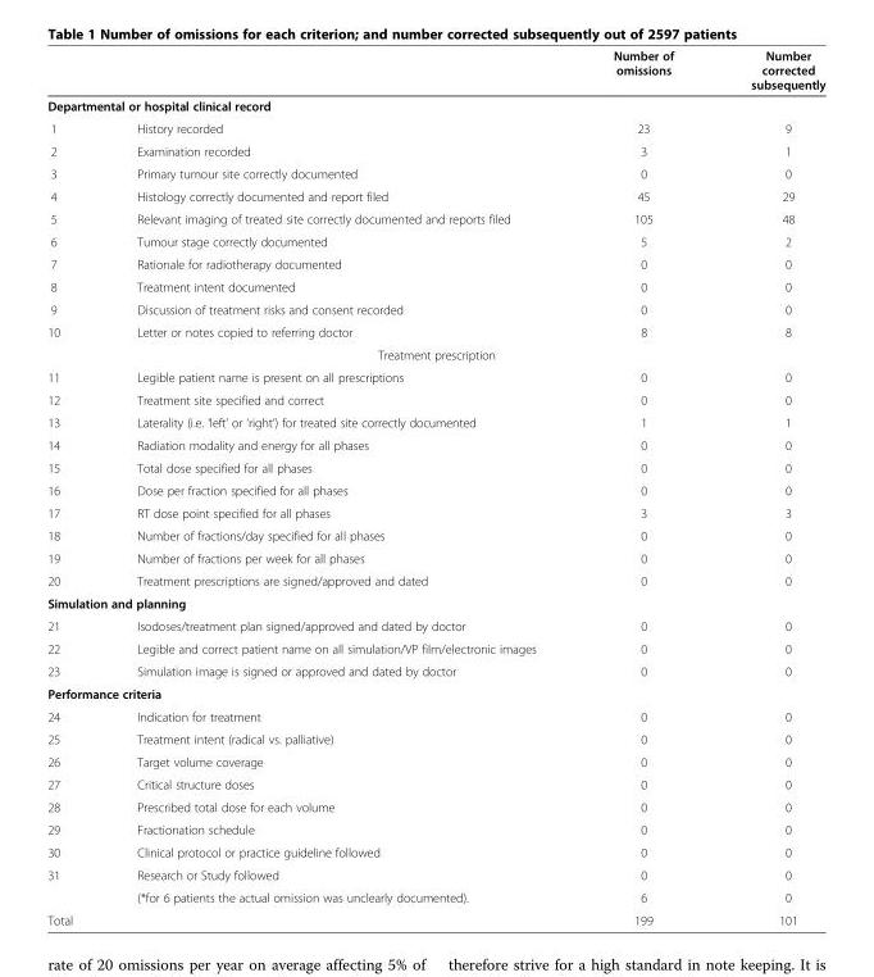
<table><thead><tr><td></td><td></td><td>Number of omissions</td><td>Number corrected subsequently</td></tr></thead><tbody><tr><td colspan="4">Departmental or hospital clinical record</td></tr><tr><td>1</td><td>History recorded</td><td>23</td><td>9</td></tr><tr><td>2</td><td>Examination recorded</td><td>3</td><td>1</td></tr><tr><td>3</td><td>Primary tumour site correctly documented</td><td>0</td><td>0</td></tr><tr><td>4</td><td>Histology correctly documented and report filed</td><td>45</td><td>29</td></tr><tr><td>5</td><td>Relevant imaging of treated site correctly documented and reports filed</td><td>105</td><td>48</td></tr><tr><td>6</td><td>Tumour stage correctly documented</td><td>5</td><td>2</td></tr><tr><td>7</td><td>Rationale for radiotherapy documented</td><td>0</td><td>0</td></tr><tr><td>8</td><td>Treatment intent documented</td><td>0</td><td>0</td></tr><tr><td>9</td><td>Discussion of treatment risks and consent recorded</td><td>0</td><td>0</td></tr><tr><td>10</td><td>Letter or notes copied to referring doctor</td><td>8</td><td>8</td></tr><tr><td colspan="4">Treatment prescription</td></tr><tr><td>11</td><td>Legible patient name is present on all prescriptions</td><td>0</td><td>0</td></tr><tr><td>12</td><td>Treatment site specified and correct</td><td>0</td><td>0</td></tr><tr><td>13</td><td>Laterality (i.e. ‘left’ or ‘right’) for treated site correctly documented</td><td>1</td><td>1</td></tr><tr><td>14</td><td>Radiation modality and energy for all phases</td><td>0</td><td>0</td></tr><tr><td>15</td><td>Total dose specified for all phases</td><td>0</td><td>0</td></tr><tr><td>16</td><td>Dose per fraction specified for all phases</td><td>0</td><td>0</td></tr><tr><td>17</td><td>RT dose point specified for all phases</td><td>3</td><td>3</td></tr><tr><td>18</td><td>Number of fractions/day specified for all phases</td><td>0</td><td>0</td></tr><tr><td>19</td><td>Number of fractions per week for all phases</td><td>0</td><td>0</td></tr><tr><td>20</td><td>Treatment prescriptions are signed/approved and dated</td><td>0</td><td>0</td></tr><tr><td colspan="4">Simulation and planning</td></tr><tr><td>21</td><td>Isodoses/treatment plan signed/approved and dated by doctor</td><td>0</td><td>0</td></tr><tr><td>22</td><td>Legible and correct patient name on all simulation/VP film/electronic images</td><td>0</td><td>0</td></tr><tr><td>23</td><td>Simulation image is signed or approved and dated by doctor</td><td>0</td><td>0</td></tr><tr><td colspan="4">Performance criteria</td></tr><tr><td>24</td><td>Indication for treatment</td><td>0</td><td>0</td></tr><tr><td>25</td><td>Treatment intent (radical vs. palliative)</td><td>0</td><td>0</td></tr><tr><td>26</td><td>Target volume coverage</td><td>0</td><td>0</td></tr><tr><td>27</td><td>Critical structure doses</td><td>0</td><td>0</td></tr><tr><td>28</td><td>Prescribed total dose for each volume</td><td>0</td><td>0</td></tr><tr><td>29</td><td>Fractionation schedule</td><td>0</td><td>0</td></tr><tr><td>30</td><td>Clinical protocol or practice guideline followed</td><td>0</td><td>0</td></tr><tr><td rowspan="2">31</td><td>Research or Study followed</td><td>0</td><td>0</td></tr><tr><td>(*for 6 patients the actual omission was unclearly documented).</td><td>6</td><td>0</td></tr><tr><td colspan="2">Total</td><td>199</td><td>101</td></tr></tbody></table>